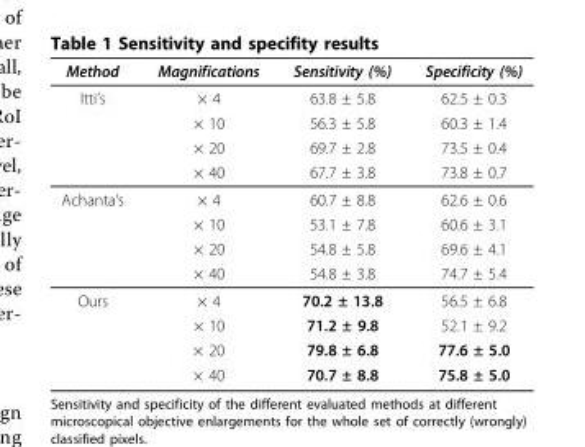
<table><thead><tr><td>Method</td><td>Magnifications</td><td>Sensitivity (%)</td><td>Specificity (%)</td></tr></thead><tbody><tr><td rowspan="4">Itti’s</td><td>× 4</td><td>63.8 ± 5.8</td><td>62.5 ± 0.3</td></tr><tr><td>× 10</td><td>56.3 ± 5.8</td><td>60.3 ± 1.4</td></tr><tr><td>× 20</td><td>69.7 ± 2.8</td><td>73.5 ± 0.4</td></tr><tr><td>× 40</td><td>67.7 ± 3.8</td><td>73.8 ± 0.7</td></tr><tr><td rowspan="4">Achanta’s</td><td>× 4</td><td>60.7 ± 8.8</td><td>62.6 ± 0.6</td></tr><tr><td>× 10</td><td>53.1 ± 7.8</td><td>60.6 ± 3.1</td></tr><tr><td>× 20</td><td>54.8 ± 5.8</td><td>69.6 ± 4.1</td></tr><tr><td>× 40</td><td>54.8 ± 3.8</td><td>74.7 ± 5.4</td></tr><tr><td rowspan="4">Ours</td><td>× 4</td><td>70.2 ± 13.8</td><td>56.5 ± 6.8</td></tr><tr><td>× 10</td><td>71.2 ± 9.8</td><td>52.1 ± 9.2</td></tr><tr><td>× 20</td><td>79.8 ± 6.8</td><td>77.6 ± 5.0</td></tr><tr><td>× 40</td><td>70.7 ± 8.8</td><td>75.8 ± 5.0</td></tr></tbody></table>